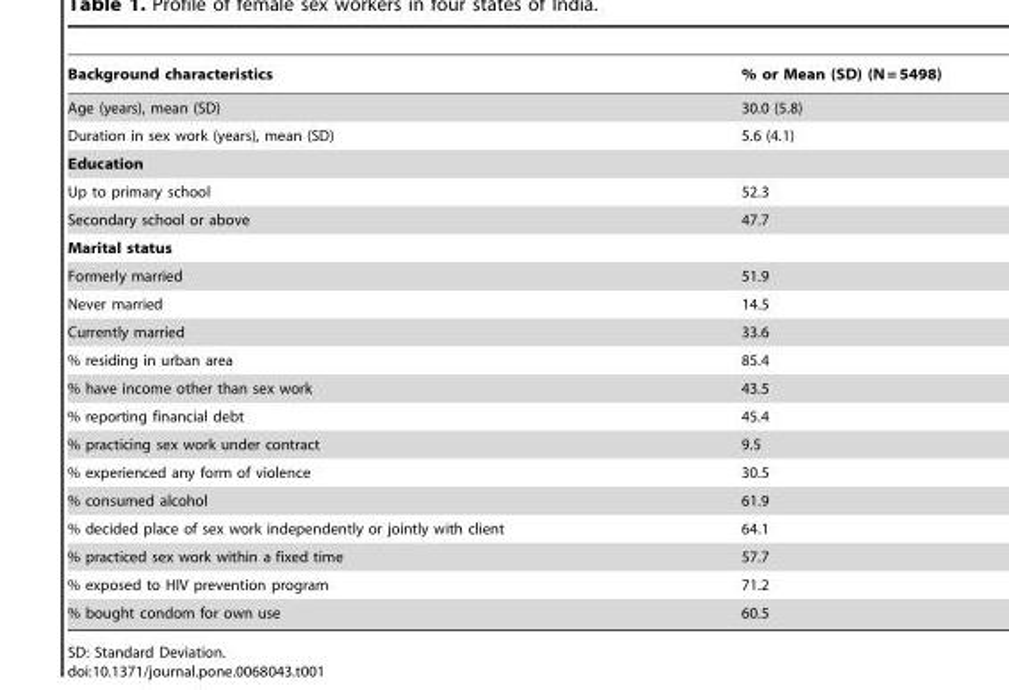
<table><thead><tr><td>Background characteristics</td><td>% or Mean (SD) (N = 5498)</td></tr></thead><tbody><tr><td>Age (years), mean (SD)</td><td>30.0 (5.8)</td></tr><tr><td>Duration in sex work (years), mean (SD)</td><td>5.6 (4.1)</td></tr><tr><td colspan="2">Education</td></tr><tr><td>Up to primary school</td><td>52.3</td></tr><tr><td>Secondary school or above</td><td>47.7</td></tr><tr><td colspan="2">Marital status</td></tr><tr><td>Formerly married</td><td>51.9</td></tr><tr><td>Never married</td><td>14.5</td></tr><tr><td>Currently married</td><td>33.6</td></tr><tr><td>% residing in urban area</td><td>85.4</td></tr><tr><td>% have income other than sex work</td><td>43.5</td></tr><tr><td>% reporting financial debt</td><td>45.4</td></tr><tr><td>% practicing sex work under contract</td><td>9.5</td></tr><tr><td>% experienced any form of violence</td><td>30.5</td></tr><tr><td>% consumed alcohol</td><td>61.9</td></tr><tr><td>% decided place of sex work independently or jointly with client</td><td>64.1</td></tr><tr><td>% practiced sex work within a fixed time</td><td>57.7</td></tr><tr><td>% exposed to HIV prevention program</td><td>71.2</td></tr><tr><td>% bought condom for own use</td><td>60.5</td></tr></tbody></table>